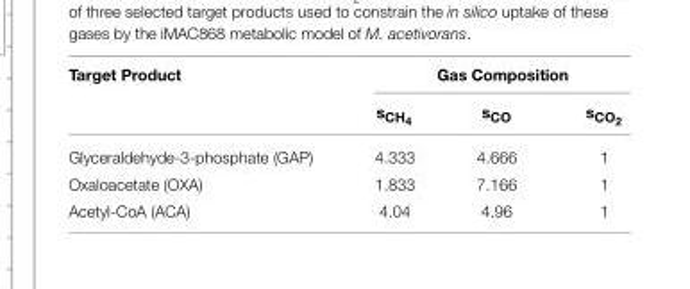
<table><thead><tr><td rowspan="2">Target Product</td><td colspan="3">Gas Composition</td></tr><tr><td>sCH4</td><td>s<sub>CO</sub></td><td>sCO2</td></tr></thead><tbody><tr><td>Glyceraldehyde-3-phosphate (GAP)</td><td>4.333</td><td>4.666</td><td>1</td></tr><tr><td>Oxaloacetate (OXA)</td><td>1.833</td><td>7.166</td><td>1</td></tr><tr><td>Acetyl-CoA (ACA)</td><td>4.04</td><td>4.96</td><td>1</td></tr></tbody></table>